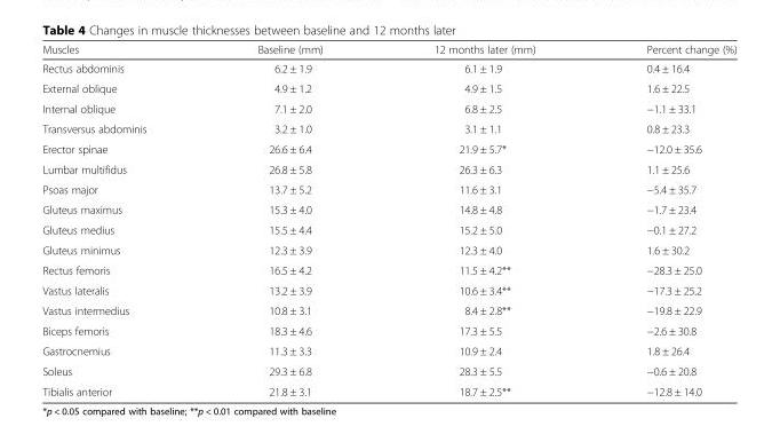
<table><thead><tr><td>Muscles</td><td>Baseline (mm)</td><td>12 months later (mm)</td><td>Percent change (%)</td></tr></thead><tbody><tr><td>Rectus abdominis</td><td>6.2 ± 1.9</td><td>6.1 ± 1.9</td><td>0.4 ± 16.4</td></tr><tr><td>External oblique</td><td>4.9 ± 1.2</td><td>4.9 ± 1.5</td><td>1.6 ± 22.5</td></tr><tr><td>Internal oblique</td><td>7.1 ± 2.0</td><td>6.8 ± 2.5</td><td>−1.1 ± 33.1</td></tr><tr><td>Transversus abdominis</td><td>3.2 ± 1.0</td><td>3.1 ± 1.1</td><td>0.8 ± 23.3</td></tr><tr><td>Erector spinae</td><td>26.6 ± 6.4</td><td>21.9 ± 5.7*</td><td>−12.0 ± 35.6</td></tr><tr><td>Lumbar multifidus</td><td>26.8 ± 5.8</td><td>26.3 ± 6.3</td><td>1.1 ± 25.6</td></tr><tr><td>Psoas major</td><td>13.7 ± 5.2</td><td>11.6 ± 3.1</td><td>−5.4 ± 35.7</td></tr><tr><td>Gluteus maximus</td><td>15.3 ± 4.0</td><td>14.8 ± 4.8</td><td>−1.7 ± 23.4</td></tr><tr><td>Gluteus medius</td><td>15.5 ± 4.4</td><td>15.2 ± 5.0</td><td>−0.1 ± 27.2</td></tr><tr><td>Gluteus minimus</td><td>12.3 ± 3.9</td><td>12.3 ± 4.0</td><td>1.6 ± 30.2</td></tr><tr><td>Rectus femoris</td><td>16.5 ± 4.2</td><td>11.5 ± 4.2**</td><td>−28.3 ± 25.0</td></tr><tr><td>Vastus lateralis</td><td>13.2 ± 3.9</td><td>10.6 ± 3.4**</td><td>−17.3 ± 25.2</td></tr><tr><td>Vastus intermedius</td><td>10.8 ± 3.1</td><td>8.4 ± 2.8**</td><td>−19.8 ± 22.9</td></tr><tr><td>Biceps femoris</td><td>18.3 ± 4.6</td><td>17.3 ± 5.5</td><td>−2.6 ± 30.8</td></tr><tr><td>Gastrocnemius</td><td>11.3 ± 3.3</td><td>10.9 ± 2.4</td><td>1.8 ± 26.4</td></tr><tr><td>Soleus</td><td>29.3 ± 6.8</td><td>28.3 ± 5.5</td><td>−0.6 ± 20.8</td></tr><tr><td>Tibialis anterior</td><td>21.8 ± 3.1</td><td>18.7 ± 2.5**</td><td>−12.8 ± 14.0</td></tr></tbody></table>